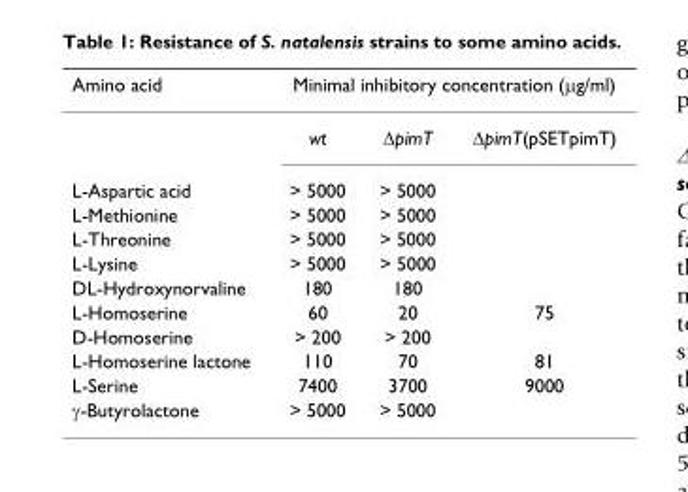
<table><thead><tr><td rowspan="2">Amino acid</td><td colspan="3">Minimal inhibitory concentration (μg/ml)</td></tr><tr><td>wt</td><td>ΔpimT</td><td>ΔpimT(pSETpimT)</td></tr></thead><tbody><tr><td>L-Aspartic acid</td><td>&gt; 5000</td><td>&gt; 5000</td><td></td></tr><tr><td>L-Methionine</td><td>&gt; 5000</td><td>&gt; 5000</td><td></td></tr><tr><td>L-Threonine</td><td>&gt; 5000</td><td>&gt; 5000</td><td></td></tr><tr><td>L-Lysine</td><td>&gt; 5000</td><td>&gt; 5000</td><td></td></tr><tr><td>DL-Hydroxynorvaline</td><td>180</td><td>180</td><td></td></tr><tr><td>L-Homoserine</td><td>60</td><td>20</td><td>75</td></tr><tr><td>D-Homoserine</td><td>&gt; 200</td><td>&gt; 200</td><td></td></tr><tr><td>L-Homoserine lactone</td><td>110</td><td>70</td><td>81</td></tr><tr><td>L-Serine</td><td>7400</td><td>3700</td><td>9000</td></tr><tr><td>γ-Butyrolactone</td><td>&gt; 5000</td><td>&gt; 5000</td><td></td></tr></tbody></table>